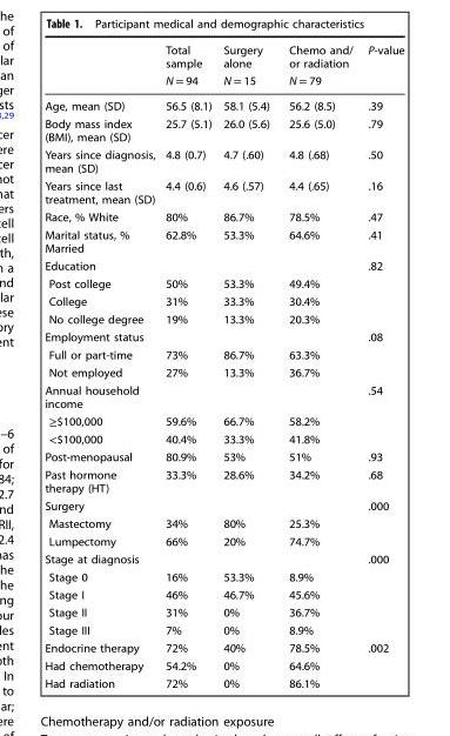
<table><thead><tr><td rowspan="2"></td><td rowspan="2">Total sample N = 94</td><td rowspan="2">Surgery alone N = 15</td><td rowspan="2">Chemo and/ or radiation N = 79</td><td rowspan="2">P-value</td></tr><tr></tr></thead><tbody><tr><td>Age, mean (SD)</td><td>56.5 (8.1)</td><td>58.1 (5.4)</td><td>56.2 (8.5)</td><td>.39</td></tr><tr><td>Body mass index (BMI), mean (SD)</td><td>25.7 (5.1)</td><td>26.0 (5.6)</td><td>25.6 (5.0)</td><td>.79</td></tr><tr><td>Years since diagnosis, mean (SD)</td><td>4.8 (0.7)</td><td>4.7 (.60)</td><td>4.8 (.68)</td><td>.50</td></tr><tr><td>Years since last treatment, mean (SD)</td><td>4.4 (0.6)</td><td>4.6 (.57)</td><td>4.4 (.65)</td><td>.16</td></tr><tr><td>Race, % White</td><td>80%</td><td>86.7%</td><td>78.5%</td><td>.47</td></tr><tr><td>Marital status, % Married</td><td>62.8%</td><td>53.3%</td><td>64.6%</td><td>.41</td></tr><tr><td colspan="4">Education</td><td rowspan="4">.82</td></tr><tr><td>Post college</td><td>50%</td><td>53.3%</td><td>49.4%</td></tr><tr><td>College</td><td>31%</td><td>33.3%</td><td>30.4%</td></tr><tr><td>No college degree</td><td>19%</td><td>13.3%</td><td>20.3%</td></tr><tr><td colspan="4">Employment status</td><td rowspan="3">.08</td></tr><tr><td>Full or part-time</td><td>73%</td><td>86.7%</td><td>63.3%</td></tr><tr><td>Not employed</td><td>27%</td><td>13.3%</td><td>36.7%</td></tr><tr><td colspan="4">Annual household income</td><td rowspan="3">.54</td></tr><tr><td>≥$100,000</td><td>59.6%</td><td>66.7%</td><td>58.2%</td></tr><tr><td>&lt;$100,000</td><td>40.4%</td><td>33.3%</td><td>41.8%</td></tr><tr><td>Post-menopausal</td><td>80.9%</td><td>53%</td><td>51%</td><td>.93</td></tr><tr><td>Past hormone therapy (HT)</td><td>33.3%</td><td>28.6%</td><td>34.2%</td><td>.68</td></tr><tr><td colspan="4">Surgery</td><td rowspan="3">.000</td></tr><tr><td>Mastectomy</td><td>34%</td><td>80%</td><td>25.3%</td></tr><tr><td>Lumpectomy</td><td>66%</td><td>20%</td><td>74.7%</td></tr><tr><td colspan="4">Stage at diagnosis</td><td rowspan="5">.000</td></tr><tr><td>Stage 0</td><td>16%</td><td>53.3%</td><td>8.9%</td></tr><tr><td>Stage I</td><td>46%</td><td>46.7%</td><td>45.6%</td></tr><tr><td>Stage II</td><td>31%</td><td>0%</td><td>36.7%</td></tr><tr><td>Stage III</td><td>7%</td><td>0%</td><td>8.9%</td></tr><tr><td>Endocrine therapy</td><td>72%</td><td>40%</td><td>78.5%</td><td>.002</td></tr><tr><td>Had chemotherapy</td><td>54.2%</td><td>0%</td><td>64.6%</td><td></td></tr><tr><td>Had radiation</td><td>72%</td><td>0%</td><td>86.1%</td><td></td></tr></tbody></table>